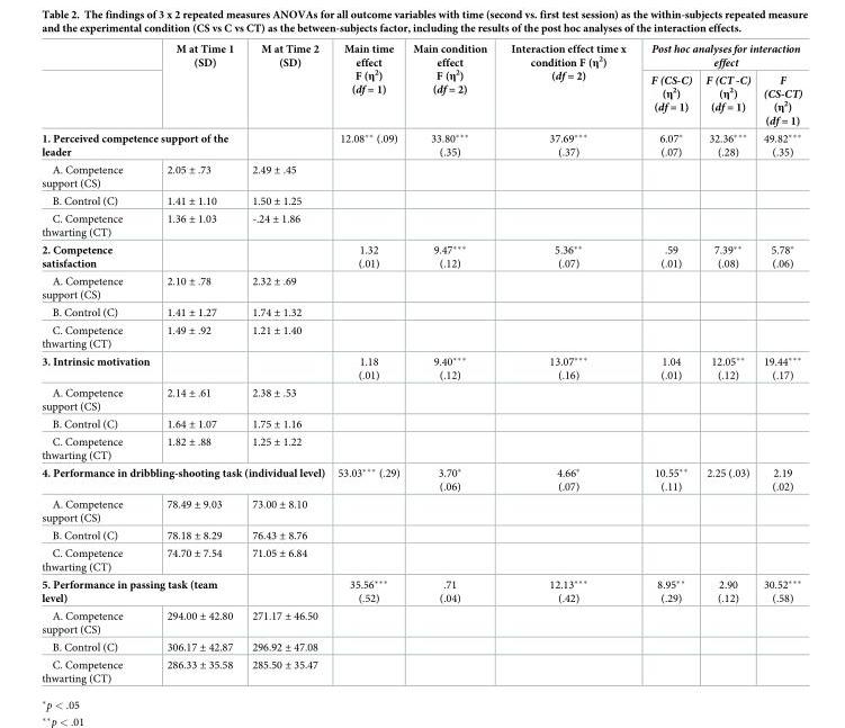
<table><thead><tr><td rowspan="2"></td><td rowspan="2">M at Time 1 (SD)</td><td rowspan="2">M at Time 2 (SD)</td><td rowspan="2">Main time effect F (η<sup>2</sup>) (df = 1)</td><td rowspan="2">Main condition effect F (η<sup>2</sup>) (df = 2)</td><td rowspan="2">Interaction effect time x condition F (η<sup>2</sup>) (df = 2)</td><td colspan="3">Post hoc analyses for interaction effect</td></tr><tr><td>F (CS-C) (η<sup>2</sup>) (df = 1)</td><td>F (CT -C) (η<sup>2</sup>) (df = 1)</td><td>F (CS-CT) (η<sup>2</sup>) (df = 1)</td></tr></thead><tbody><tr><td colspan="2">1. Perceived competence support of the leader</td><td></td><td>12.08** (.09)</td><td>33.80*** (.35)</td><td>37.69*** (.37)</td><td>6.07* (.07)</td><td>32.36*** (.28)</td><td>49.82*** (.35)</td></tr><tr><td>A. Competence support (CS)</td><td>2.05 ± .73</td><td>2.49 ± .45</td><td></td><td></td><td></td><td></td><td></td><td></td></tr><tr><td>B. Control (C)</td><td>1.41 ± 1.10</td><td>1.50 ± 1.25</td><td></td><td></td><td></td><td></td><td></td><td></td></tr><tr><td>C. Competence thwarting (CT)</td><td>1.36 ± 1.03</td><td>-.24 ± 1.86</td><td></td><td></td><td></td><td></td><td></td><td></td></tr><tr><td>2. Competence satisfaction</td><td></td><td></td><td>1.32 (.01)</td><td>9.47*** (.12)</td><td>5.36** (.07)</td><td>.59 (.01)</td><td>7.39** (.08)</td><td>5.78* (.06)</td></tr><tr><td>A. Competence support (CS)</td><td>2.10 ± .78</td><td>2.32 ± .69</td><td></td><td></td><td></td><td></td><td></td><td></td></tr><tr><td>B. Control (C)</td><td>1.41 ± 1.27</td><td>1.74 ± 1.32</td><td></td><td></td><td></td><td></td><td></td><td></td></tr><tr><td>C. Competence thwarting (CT)</td><td>1.49 ± .92</td><td>1.21 ± 1.40</td><td></td><td></td><td></td><td></td><td></td><td></td></tr><tr><td>3. Intrinsic motivation</td><td></td><td></td><td>1.18 (.01)</td><td>9.40*** (.12)</td><td>13.07*** (.16)</td><td>1.04 (.01)</td><td>12.05** (.12)</td><td>19.44*** (.17)</td></tr><tr><td>A. Competence support (CS)</td><td>2.14 ± .61</td><td>2.38 ± .53</td><td></td><td></td><td></td><td></td><td></td><td></td></tr><tr><td>B. Control (C)</td><td>1.64 ± 1.07</td><td>1.75 ± 1.16</td><td></td><td></td><td></td><td></td><td></td><td></td></tr><tr><td>C. Competence thwarting (CT)</td><td>1.82 ± .88</td><td>1.25 ± 1.22</td><td></td><td></td><td></td><td></td><td></td><td></td></tr><tr><td colspan="3">4. Performance in dribbling-shooting task (individual level)</td><td>53.03*** (.29)</td><td>3.70* (.06)</td><td>4.66* (.07)</td><td>10.55** (.11)</td><td>2.25 (.03)</td><td>2.19 (.02)</td></tr><tr><td>A. Competence support (CS)</td><td>78.49 ± 9.03</td><td>73.00 ± 8.10</td><td></td><td></td><td></td><td></td><td></td><td></td></tr><tr><td>B. Control (C)</td><td>78.18 ± 8.29</td><td>76.43 ± 8.76</td><td></td><td></td><td></td><td></td><td></td><td></td></tr><tr><td>C. Competence thwarting (CT)</td><td>74.70 ± 7.54</td><td>71.05 ± 6.84</td><td></td><td></td><td></td><td></td><td></td><td></td></tr><tr><td colspan="2">5. Performance in passing task (team level)</td><td></td><td>35.56*** (.52)</td><td>.71 (.04)</td><td>12.13*** (.42)</td><td>8.95** (.29)</td><td>2.90 (.12)</td><td>30.52*** (.58)</td></tr><tr><td>A. Competence support (CS)</td><td>294.00 ± 42.80</td><td>271.17 ± 46.50</td><td></td><td></td><td></td><td></td><td></td><td></td></tr><tr><td>B. Control (C)</td><td>306.17 ± 42.87</td><td>296.92 ± 47.08</td><td></td><td></td><td></td><td></td><td></td><td></td></tr><tr><td>C. Competence thwarting (CT)</td><td>286.33 ± 35.58</td><td>285.50 ± 35.47</td><td></td><td></td><td></td><td></td><td></td><td></td></tr></tbody></table>